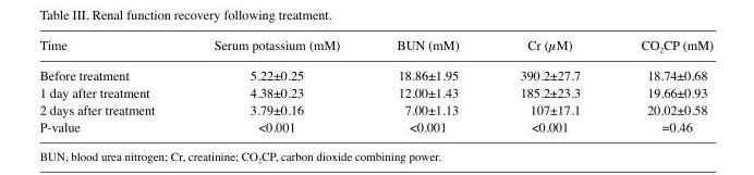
<table><thead><tr><td>Time</td><td>Serum potassium (mM)</td><td>BUN (mM)</td><td>Cr (µM)</td><td>CO<sub>2</sub>CP (mM)</td></tr></thead><tbody><tr><td>Before treatment</td><td>5.22±0.25</td><td>18.86±1.95</td><td>390.2±27.7</td><td>18.74±0.68</td></tr><tr><td>1 day after treatment</td><td>4.38±0.23</td><td>12.00±1.43</td><td>185.2±23.3</td><td>19.66±0.93</td></tr><tr><td>2 days after treatment</td><td>3.79±0.16</td><td>7.00±1.13</td><td>107±17.1</td><td>20.02±0.58</td></tr><tr><td>P-value</td><td>&lt;0.001</td><td>&lt;0.001</td><td>&lt;0.001</td><td>=0.46</td></tr></tbody></table>